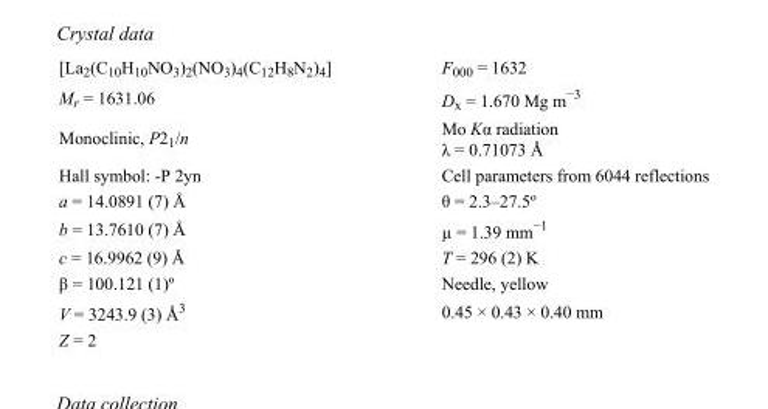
<table><tbody><tr><td>[La<sub>2</sub>(C<sub>10</sub>H<sub>10</sub>NO<sub>3</sub>)<sub>2</sub>(NO<sub>3</sub>)<sub>4</sub>(C<sub>12</sub>H<sub>8</sub>N<sub>2</sub>)<sub>4</sub>]</td><td>F000 = 1632</td></tr><tr><td>M<sub>r</sub> = 1631.06</td><td>D<sub>x</sub> = 1.670 Mg m<sup>−3</sup></td></tr><tr><td>Monoclinic, P2<sub>1</sub>/n</td><td>Mo Kα radiation λ = 0.71073 Å</td></tr><tr><td>Hall symbol: -P 2yn</td><td>Cell parameters from 6044 reflections</td></tr><tr><td>a = 14.0891 (7) Å</td><td>θ = 2.3–27.5º</td></tr><tr><td>b = 13.7610 (7) Å</td><td>µ = 1.39 mm<sup>−1</sup></td></tr><tr><td>c = 16.9962 (9) Å</td><td>T = 296 (2) K</td></tr><tr><td>β = 100.121 (1)º</td><td>Needle, yellow</td></tr><tr><td>V = 3243.9 (3) Å<sup>3</sup></td><td>0.45 × 0.43 × 0.40 mm</td></tr><tr><td>Z = 2</td><td></td></tr></tbody></table>